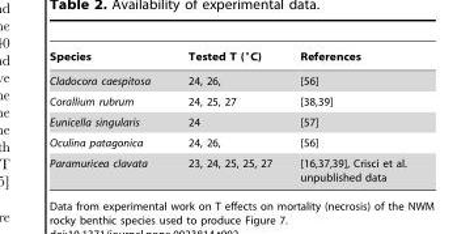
<table><thead><tr><td>Species</td><td>Tested T (°C)</td><td>References</td></tr></thead><tbody><tr><td>Cladocora caespitosa</td><td>24, 26,</td><td>[56]</td></tr><tr><td>Corallium rubrum</td><td>24, 25, 27</td><td>[38,39]</td></tr><tr><td>Eunicella singularis</td><td>24</td><td>[57]</td></tr><tr><td>Oculina patagonica</td><td>24, 26,</td><td>[56]</td></tr><tr><td>Paramuricea clavata</td><td>23, 24, 25, 25, 27</td><td>[16,37,39], Crisci et al. unpublished data</td></tr></tbody></table>